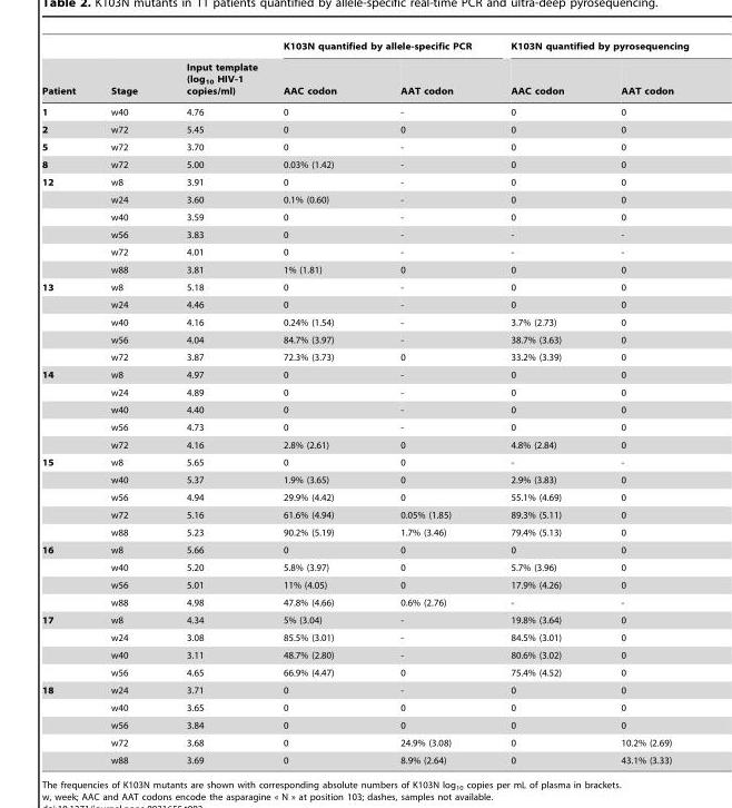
<table><thead><tr><td rowspan="2">Patient</td><td rowspan="2">Stage</td><td rowspan="2">Input template (log<sub>10</sub> HIV-1 copies/ml)</td><td colspan="2">K103N quantified by allele-specific PCR</td><td colspan="2">K103N quantified by pyrosequencing</td></tr><tr><td>AAC codon</td><td>AAT codon</td><td>AAC codon</td><td>AAT codon</td></tr></thead><tbody><tr><td>1</td><td>w40</td><td>4.76</td><td>0</td><td>-</td><td>0</td><td>0</td></tr><tr><td>2</td><td>w72</td><td>5.45</td><td>0</td><td>0</td><td>0</td><td>0</td></tr><tr><td>5</td><td>w72</td><td>3.70</td><td>0</td><td>-</td><td>0</td><td>0</td></tr><tr><td>8</td><td>w72</td><td>5.00</td><td>0.03% (1.42)</td><td>-</td><td>0</td><td>0</td></tr><tr><td rowspan="6">12</td><td>w8</td><td>3.91</td><td>0</td><td>-</td><td>0</td><td>0</td></tr><tr><td>w24</td><td>3.60</td><td>0.1% (0.60)</td><td>-</td><td>0</td><td>0</td></tr><tr><td>w40</td><td>3.59</td><td>0</td><td>-</td><td>0</td><td>0</td></tr><tr><td>w56</td><td>3.83</td><td>0</td><td>-</td><td>-</td><td>-</td></tr><tr><td>w72</td><td>4.01</td><td>0</td><td>-</td><td>-</td><td>-</td></tr><tr><td>w88</td><td>3.81</td><td>1% (1.81)</td><td>0</td><td>0</td><td>0</td></tr><tr><td rowspan="5">13</td><td>w8</td><td>5.18</td><td>0</td><td>-</td><td>0</td><td>0</td></tr><tr><td>w24</td><td>4.46</td><td>0</td><td>-</td><td>0</td><td>0</td></tr><tr><td>w40</td><td>4.16</td><td>0.24% (1.54)</td><td>-</td><td>3.7% (2.73)</td><td>0</td></tr><tr><td>w56</td><td>4.04</td><td>84.7% (3.97)</td><td>-</td><td>38.7% (3.63)</td><td>0</td></tr><tr><td>w72</td><td>3.87</td><td>72.3% (3.73)</td><td>0</td><td>33.2% (3.39)</td><td>0</td></tr><tr><td rowspan="5">14</td><td>w8</td><td>4.97</td><td>0</td><td>-</td><td>0</td><td>0</td></tr><tr><td>w24</td><td>4.89</td><td>0</td><td>-</td><td>0</td><td>0</td></tr><tr><td>w40</td><td>4.40</td><td>0</td><td>-</td><td>0</td><td>0</td></tr><tr><td>w56</td><td>4.73</td><td>0</td><td>-</td><td>0</td><td>0</td></tr><tr><td>w72</td><td>4.16</td><td>2.8% (2.61)</td><td>0</td><td>4.8% (2.84)</td><td>0</td></tr><tr><td rowspan="5">15</td><td>w8</td><td>5.65</td><td>0</td><td>0</td><td>-</td><td>-</td></tr><tr><td>w40</td><td>5.37</td><td>1.9% (3.65)</td><td>0</td><td>2.9% (3.83)</td><td>0</td></tr><tr><td>w56</td><td>4.94</td><td>29.9% (4.42)</td><td>0</td><td>55.1% (4.69)</td><td>0</td></tr><tr><td>w72</td><td>5.16</td><td>61.6% (4.94)</td><td>0.05% (1.85)</td><td>89.3% (5.11)</td><td>0</td></tr><tr><td>w88</td><td>5.23</td><td>90.2% (5.19)</td><td>1.7% (3.46)</td><td>79.4% (5.13)</td><td>0</td></tr><tr><td rowspan="4">16</td><td>w8</td><td>5.66</td><td>0</td><td>0</td><td>0</td><td>0</td></tr><tr><td>w40</td><td>5.20</td><td>5.8% (3.97)</td><td>0</td><td>5.7% (3.96)</td><td>0</td></tr><tr><td>w56</td><td>5.01</td><td>11% (4.05)</td><td>0</td><td>17.9% (4.26)</td><td>0</td></tr><tr><td>w88</td><td>4.98</td><td>47.8% (4.66)</td><td>0.6% (2.76)</td><td>-</td><td>-</td></tr><tr><td rowspan="4">17</td><td>w8</td><td>4.34</td><td>5% (3.04)</td><td>-</td><td>19.8% (3.64)</td><td>0</td></tr><tr><td>w24</td><td>3.08</td><td>85.5% (3.01)</td><td>-</td><td>84.5% (3.01)</td><td>0</td></tr><tr><td>w40</td><td>3.11</td><td>48.7% (2.80)</td><td>-</td><td>80.6% (3.02)</td><td>0</td></tr><tr><td>w56</td><td>4.65</td><td>66.9% (4.47)</td><td>0</td><td>75.4% (4.52)</td><td>0</td></tr><tr><td rowspan="5">18</td><td>w24</td><td>3.71</td><td>0</td><td>-</td><td>0</td><td>0</td></tr><tr><td>w40</td><td>3.65</td><td>0</td><td>0</td><td>0</td><td>0</td></tr><tr><td>w56</td><td>3.84</td><td>0</td><td>0</td><td>0</td><td>0</td></tr><tr><td>w72</td><td>3.68</td><td>0</td><td>24.9% (3.08)</td><td>0</td><td>10.2% (2.69)</td></tr><tr><td>w88</td><td>3.69</td><td>0</td><td>8.9% (2.64)</td><td>0</td><td>43.1% (3.33)</td></tr></tbody></table>